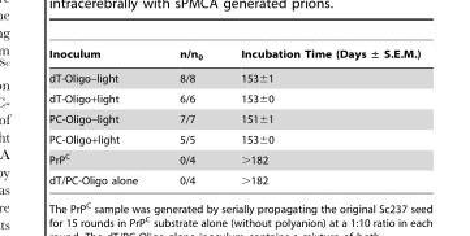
<table><thead><tr><td>Inoculum</td><td>n/n<sub>0</sub></td><td>Incubation Time (Days ± S.E.M.)</td></tr></thead><tbody><tr><td>dT-Oligo–light</td><td>8/8</td><td>153±1</td></tr><tr><td>dT-Oligo+light</td><td>6/6</td><td>153±0</td></tr><tr><td>PC-Oligo–light</td><td>7/7</td><td>151±1</td></tr><tr><td>PC-Oligo+light</td><td>5/5</td><td>153±0</td></tr><tr><td>PrP<sup>C</sup></td><td>0/4</td><td>&gt;182</td></tr><tr><td>dT/PC-Oligo alone</td><td>0/4</td><td>&gt;182</td></tr></tbody></table>